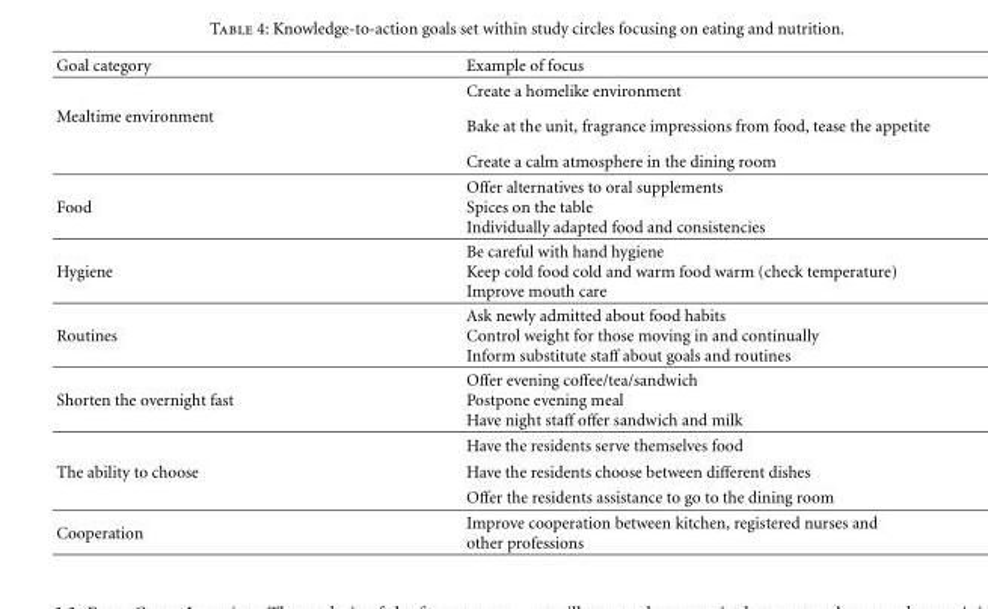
<table><thead><tr><td>Goal category</td><td>Example of focus</td></tr></thead><tbody><tr><td></td><td>Create a homelike environment</td></tr><tr><td rowspan="2">Mealtime environment</td><td>Bake at the unit, fragrance impressions from food, tease the appetite</td></tr><tr><td>Create a calm atmosphere in the dining room</td></tr><tr><td>Food</td><td>Offer alternatives to oral supplements Spices on the table Individually adapted food and consistencies</td></tr><tr><td>Hygiene</td><td>Be careful with hand hygiene Keep cold food cold and warm food warm (check temperature) Improve mouth care</td></tr><tr><td>Routines</td><td>Ask newly admitted about food habits Control weight for those moving in and continually Inform substitute staff about goals and routines</td></tr><tr><td rowspan="2">Shorten the overnight fast</td><td>Offer evening coffee/tea/sandwich Postpone evening meal Have night staff offer sandwich and milk</td></tr><tr><td>Have the residents serve themselves food</td></tr><tr><td rowspan="2">The ability to choose</td><td>Have the residents choose between different dishes</td></tr><tr><td>Offer the residents assistance to go to the dining room</td></tr><tr><td>Cooperation</td><td>Improve cooperation between kitchen, registered nurses and other professions</td></tr></tbody></table>